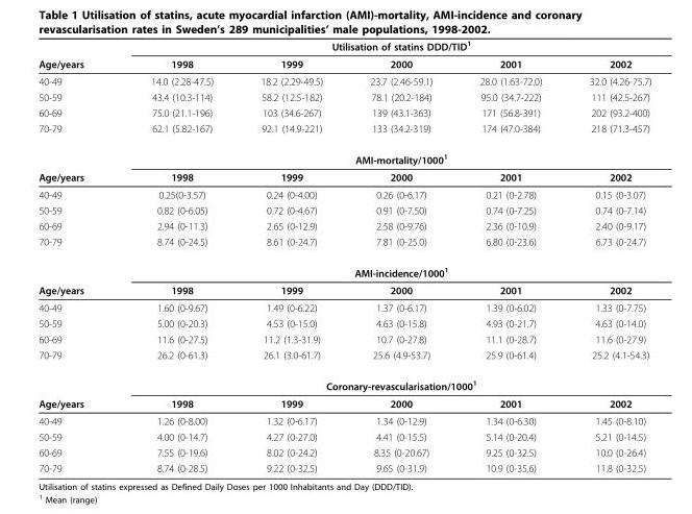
<table><thead><tr><td rowspan="2">Age/years</td><td colspan="5">Utilisation of statins DDD/TID<sup>1</sup></td></tr><tr><td>1998</td><td>1999</td><td>2000</td><td>2001</td><td>2002</td></tr></thead><tbody><tr><td>40-49</td><td>14.0 (2.28-47.5)</td><td>18.2 (2.29-49.5)</td><td>23.7 (2.46-59.1)</td><td>28.0 (1.63-72.0)</td><td>32.0 (4.26-75.7)</td></tr><tr><td>50-59</td><td>43.4 (10.3-114)</td><td>58.2 (12.5-182)</td><td>78.1 (20.2-184)</td><td>95.0 (34.7-222)</td><td>111 (42.5-267)</td></tr><tr><td>60-69</td><td>75.0 (21.1-196)</td><td>103 (34.6-267)</td><td>139 (43.1-363)</td><td>171 (56.8-391)</td><td>202 (93.2-400)</td></tr><tr><td rowspan="2">70-79</td><td>62.1 (5.82-167)</td><td>92.1 (14.9-221)</td><td>133 (34.2-319)</td><td>174 (47.0-384)</td><td>218 (71.3-457)</td></tr><tr><td colspan="5">AMI-mortality/1000<sup>1</sup></td></tr><tr><td>Age/years</td><td>1998</td><td>1999</td><td>2000</td><td>2001</td><td>2002</td></tr><tr><td>40-49</td><td>0.25(0-3.57)</td><td>0.24 (0-4.00)</td><td>0.26 (0-6.17)</td><td>0.21 (0-2.78)</td><td>0.15 (0-3.07)</td></tr><tr><td>50-59</td><td>0.82 (0-6.05)</td><td>0.72 (0-4.67)</td><td>0.91 (0-7.50)</td><td>0.74 (0-7.25)</td><td>0.74 (0-7.14)</td></tr><tr><td>60-69</td><td>2.94 (0-11.3)</td><td>2.65 (0-12.9)</td><td>2.58 (0-9.76)</td><td>2.36 (0-10.9)</td><td>2.40 (0-9.17)</td></tr><tr><td rowspan="2">70-79</td><td>8.74 (0-24.5)</td><td>8.61 (0-24.7)</td><td>7.81 (0-25.0)</td><td>6.80 (0-23.6)</td><td>6.73 (0-24.7)</td></tr><tr><td colspan="5">AMI-incidence/1000<sup>1</sup></td></tr><tr><td>Age/years</td><td>1998</td><td>1999</td><td>2000</td><td>2001</td><td>2002</td></tr><tr><td>40-49</td><td>1.60 (0-9.67)</td><td>1.49 (0-6.22)</td><td>1.37 (0-6.17)</td><td>1.39 (0-6.02)</td><td>1.33 (0-7.75)</td></tr><tr><td>50-59</td><td>5.00 (0-20.3)</td><td>4.53 (0-15.0)</td><td>4.63 (0-15.8)</td><td>4.93 (0-21.7)</td><td>4.63 (0-14.0)</td></tr><tr><td>60-69</td><td>11.6 (0-27.5)</td><td>11.2 (1.3-31.9)</td><td>10.7 (0-27.8)</td><td>11.1 (0-28.7)</td><td>11.6 (0-27.9)</td></tr><tr><td rowspan="2">70-79</td><td>26.2 (0-61.3)</td><td>26.1 (3.0-61.7)</td><td>25.6 (4.9-53.7)</td><td>25.9 (0-61.4)</td><td>25.2 (4.1-54.3)</td></tr><tr><td colspan="5">Coronary-revascularisation/1000<sup>1</sup></td></tr><tr><td>Age/years</td><td>1998</td><td>1999</td><td>2000</td><td>2001</td><td>2002</td></tr><tr><td>40-49</td><td>1.26 (0-8.00)</td><td>1.32 (0-6.17)</td><td>1.34 (0-12.9)</td><td>1.34 (0-6.30)</td><td>1.45 (0-8.10)</td></tr><tr><td>50-59</td><td>4.00 (0-14.7)</td><td>4.27 (0-27.0)</td><td>4.41 (0-15.5)</td><td>5.14 (0-20.4)</td><td>5.21 (0-14.5)</td></tr><tr><td>60-69</td><td>7.55 (0-19.6)</td><td>8.02 (0-24.2)</td><td>8.35 (0-20.67)</td><td>9.25 (0-32.5)</td><td>10.0 (0-26.4)</td></tr><tr><td>70-79</td><td>8.74 (0-28.5)</td><td>9.22 (0-32.5)</td><td>9.65 (0-31.9)</td><td>10.9 (0-35.6)</td><td>11.8 (0-32.5)</td></tr></tbody></table>